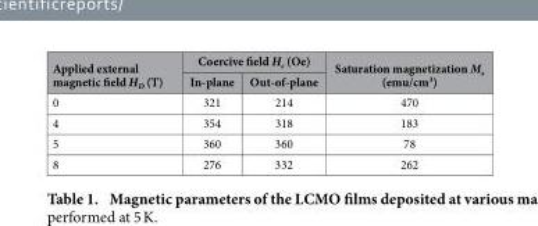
<table><thead><tr><td rowspan="2">Applied external magnetic field H<sub>D</sub> (T)</td><td colspan="2">Coercive field H<sub>c</sub> (Oe)</td><td rowspan="2">Saturation magnetization M<sub>s</sub> (emu/cm<sub>3</sub>)</td></tr><tr><td>In-plane</td><td>Out-of-plane</td></tr></thead><tbody><tr><td>0</td><td>321</td><td>214</td><td>470</td></tr><tr><td>4</td><td>354</td><td>318</td><td>183</td></tr><tr><td>5</td><td>360</td><td>360</td><td>78</td></tr><tr><td>8</td><td>276</td><td>332</td><td>262</td></tr></tbody></table>